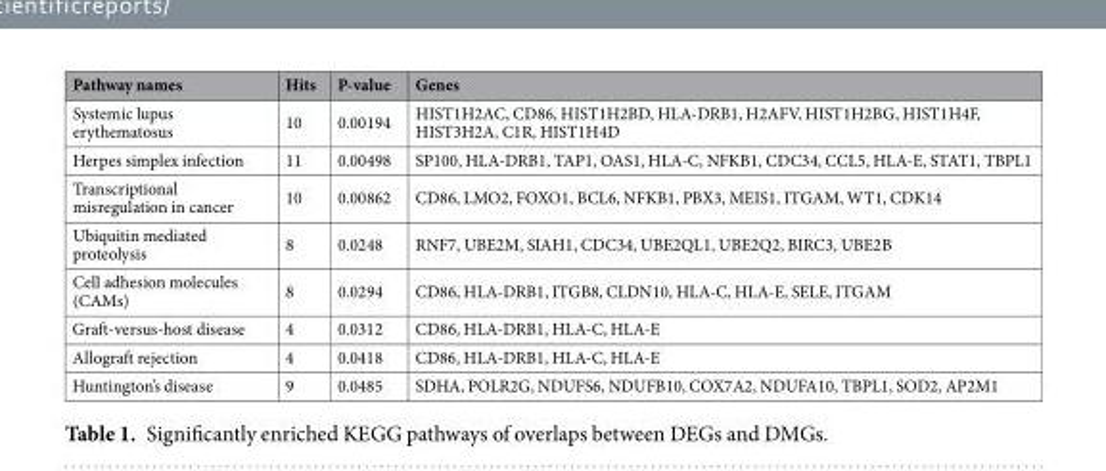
<table><thead><tr><td>Pathway names</td><td>Hits</td><td>P-value</td><td>Genes</td></tr></thead><tbody><tr><td>Systemic lupus erythematosus</td><td>10</td><td>0.00194</td><td>HIST1H2AC, CD86, HIST1H2BD, HLA-DRB1, H2AFV, HIST1H2BG, HIST1H4F, HIST3H2A, C1R, HIST1H4D</td></tr><tr><td>Herpes simplex infection</td><td>11</td><td>0.00498</td><td>SP100, HLA-DRB1, TAP1, OAS1, HLA-C, NFKB1, CDC34, CCL5, HLA-E, STAT1, TBPL1</td></tr><tr><td>Transcriptional misregulation in cancer</td><td>10</td><td>0.00862</td><td>CD86, LMO2, FOXO1, BCL6, NFKB1, PBX3, MEIS1, ITGAM, WT1, CDK14</td></tr><tr><td>Ubiquitin mediated proteolysis</td><td>8</td><td>0.0248</td><td>RNF7, UBE2M, SIAH1, CDC34, UBE2QL1, UBE2Q2, BIRC3, UBE2B</td></tr><tr><td>Cell adhesion molecules (CAMs)</td><td>8</td><td>0.0294</td><td>CD86, HLA-DRB1, ITGB8, CLDN10, HLA-C, HLA-E, SELE, ITGAM</td></tr><tr><td>Graft-versus-host disease</td><td>4</td><td>0.0312</td><td>CD86, HLA-DRB1, HLA-C, HLA-E</td></tr><tr><td>Allograft rejection</td><td>4</td><td>0.0418</td><td>CD86, HLA-DRB1, HLA-C, HLA-E</td></tr><tr><td>Huntington’s disease</td><td>9</td><td>0.0485</td><td>SDHA, POLR2G, NDUFS6, NDUFB10, COX7A2, NDUFA10, TBPL1, SOD2, AP2M1</td></tr></tbody></table>